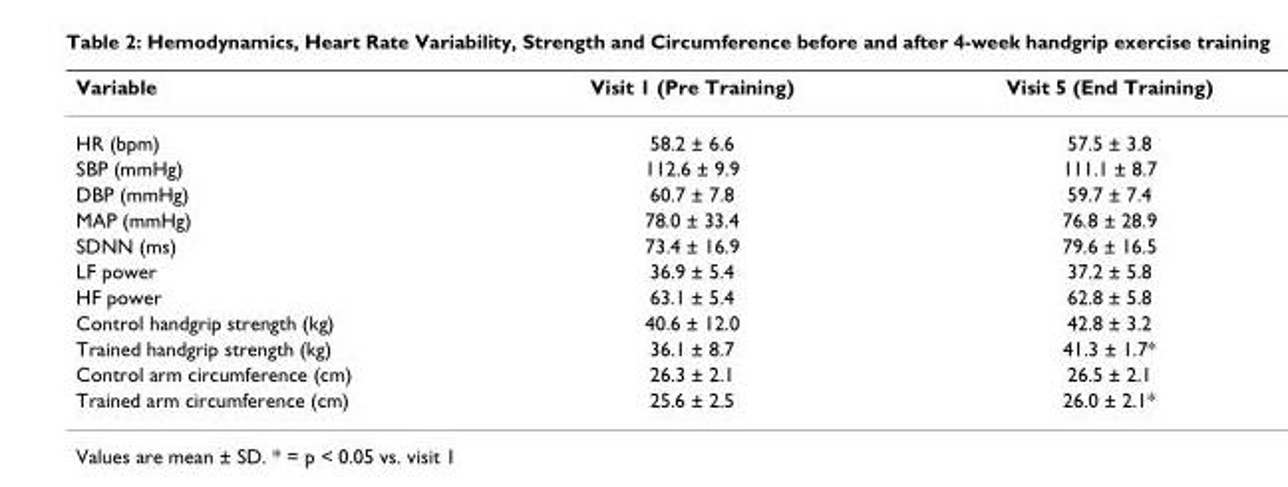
<table><thead><tr><td>Variable</td><td>Visit 1 (Pre Training)</td><td>Visit 5 (End Training)</td></tr></thead><tbody><tr><td>HR (bpm)</td><td>58.2 ± 6.6</td><td>57.5 ± 3.8</td></tr><tr><td>SBP (mmHg)</td><td>112.6 ± 9.9</td><td>111.1 ± 8.7</td></tr><tr><td>DBP (mmHg)</td><td>60.7 ± 7.8</td><td>59.7 ± 7.4</td></tr><tr><td>MAP (mmHg)</td><td>78.0 ± 33.4</td><td>76.8 ± 28.9</td></tr><tr><td>SDNN (ms)</td><td>73.4 ± 16.9</td><td>79.6 ± 16.5</td></tr><tr><td>LF power</td><td>36.9 ± 5.4</td><td>37.2 ± 5.8</td></tr><tr><td>HF power</td><td>63.1 ± 5.4</td><td>62.8 ± 5.8</td></tr><tr><td>Control handgrip strength (kg)</td><td>40.6 ± 12.0</td><td>42.8 ± 3.2</td></tr><tr><td>Trained handgrip strength (kg)</td><td>36.1 ± 8.7</td><td>41.3 ± 1.7*</td></tr><tr><td>Control arm circumference (cm)</td><td>26.3 ± 2.1</td><td>26.5 ± 2.1</td></tr><tr><td>Trained arm circumference (cm)</td><td>25.6 ± 2.5</td><td>26.0 ± 2.1*</td></tr></tbody></table>